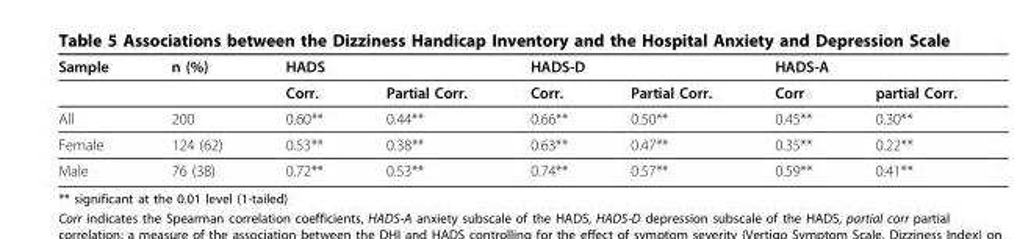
<table><thead><tr><td rowspan="2">Sample</td><td rowspan="2">n (%)</td><td colspan="2">HADS</td><td colspan="2">HADS-D</td><td colspan="2">HADS-A</td></tr><tr><td>Corr.</td><td>Partial Corr.</td><td>Corr.</td><td>Partial Corr.</td><td>Corr</td><td>partial Corr.</td></tr></thead><tbody><tr><td>All</td><td>200</td><td>0.60**</td><td>0.44**</td><td>0.66**</td><td>0.50**</td><td>0.45**</td><td>0.30**</td></tr><tr><td>Female</td><td>124 (62)</td><td>0.53**</td><td>0.38**</td><td>0.63**</td><td>0.47**</td><td>0.35**</td><td>0.22**</td></tr><tr><td>Male</td><td>76 (38)</td><td>0.72**</td><td>0.53**</td><td>0.74**</td><td>0.57**</td><td>0.59**</td><td>0.41**</td></tr></tbody></table>